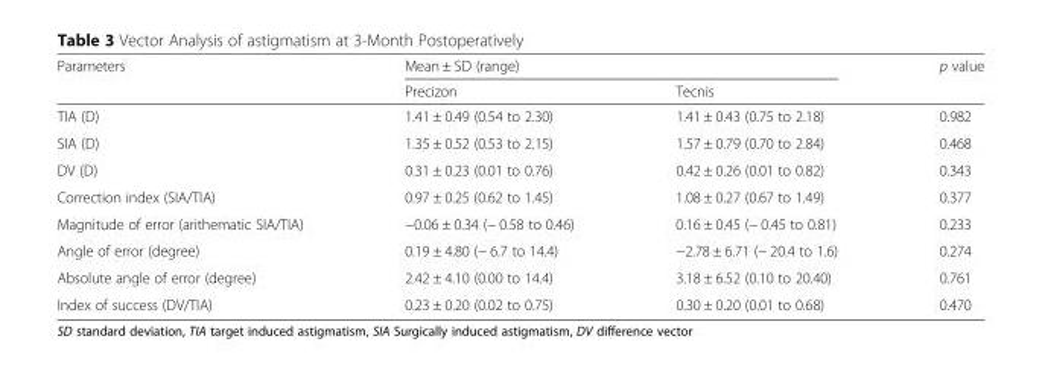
<table><thead><tr><td rowspan="2">Parameters</td><td colspan="2">Mean ± SD (range)</td><td rowspan="2">p value</td></tr><tr><td>Precizon</td><td>Tecnis</td></tr></thead><tbody><tr><td>TIA (D)</td><td>1.41 ± 0.49 (0.54 to 2.30)</td><td>1.41 ± 0.43 (0.75 to 2.18)</td><td>0.982</td></tr><tr><td>SIA (D)</td><td>1.35 ± 0.52 (0.53 to 2.15)</td><td>1.57 ± 0.79 (0.70 to 2.84)</td><td>0.468</td></tr><tr><td>DV (D)</td><td>0.31 ± 0.23 (0.01 to 0.76)</td><td>0.42 ± 0.26 (0.01 to 0.82)</td><td>0.343</td></tr><tr><td>Correction index (SIA/TIA)</td><td>0.97 ± 0.25 (0.62 to 1.45)</td><td>1.08 ± 0.27 (0.67 to 1.49)</td><td>0.377</td></tr><tr><td>Magnitude of error (arithematic SIA/TIA)</td><td>−0.06 ± 0.34 (− 0.58 to 0.46)</td><td>0.16 ± 0.45 (− 0.45 to 0.81)</td><td>0.233</td></tr><tr><td>Angle of error (degree)</td><td>0.19 ± 4.80 (− 6.7 to 14.4)</td><td>−2.78 ± 6.71 (− 20.4 to 1.6)</td><td>0.274</td></tr><tr><td>Absolute angle of error (degree)</td><td>2.42 ± 4.10 (0.00 to 14.4)</td><td>3.18 ± 6.52 (0.10 to 20.40)</td><td>0.761</td></tr><tr><td>Index of success (DV/TIA)</td><td>0.23 ± 0.20 (0.02 to 0.75)</td><td>0.30 ± 0.20 (0.01 to 0.68)</td><td>0.470</td></tr></tbody></table>